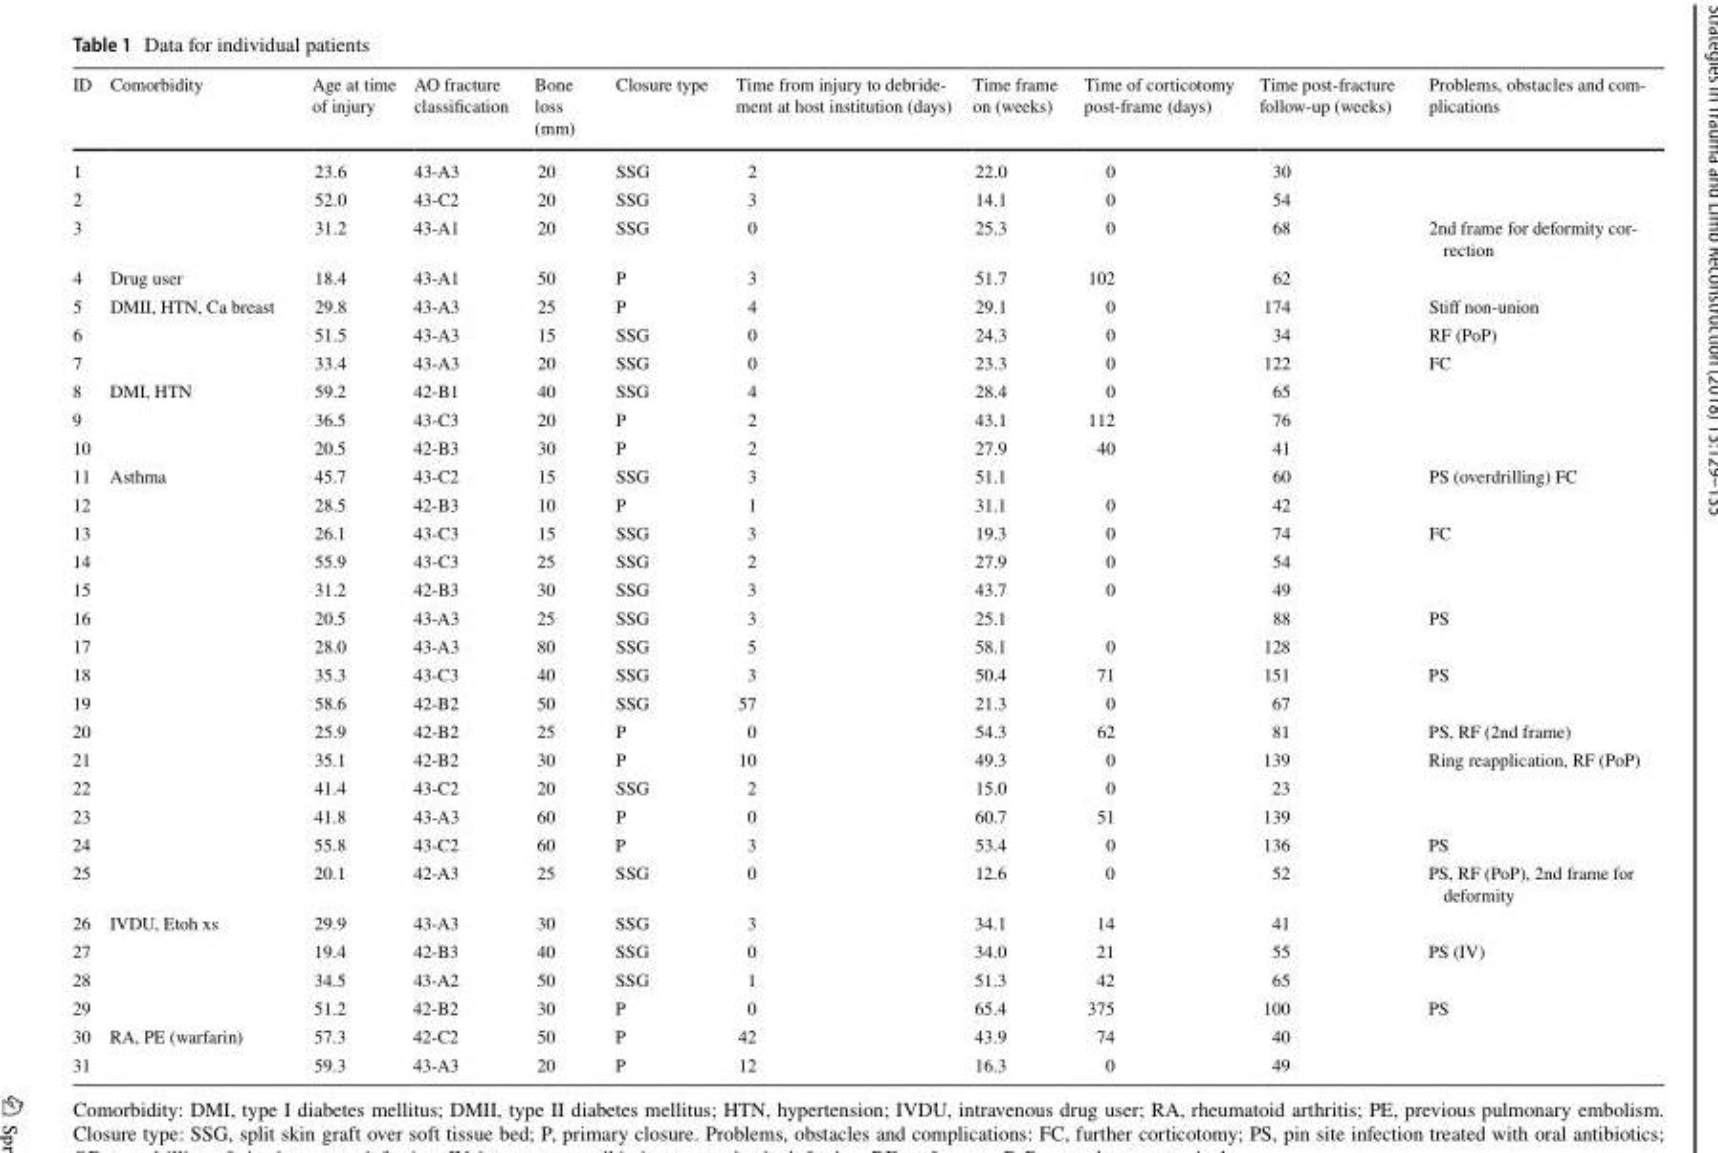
<table><thead><tr><td>ID</td><td>Comorbidity</td><td>Age at time of injury</td><td>AO fracture classification</td><td>Bone loss (mm)</td><td>Closure type</td><td>Time from injury to debride- ment at host institution (days)</td><td>Time frame on (weeks)</td><td>Time of corticotomy post-frame (days)</td><td>Time post-fracture follow-up (weeks)</td><td>Problems, obstacles and com- plications</td></tr></thead><tbody><tr><td>1</td><td></td><td>23.6</td><td>43-A3</td><td>20</td><td>SSG</td><td>2</td><td>22.0</td><td>0</td><td>30</td><td></td></tr><tr><td>2</td><td></td><td>52.0</td><td>43-C2</td><td>20</td><td>SSG</td><td>3</td><td>14.1</td><td>0</td><td>54</td><td></td></tr><tr><td>3</td><td></td><td>31.2</td><td>43-A1</td><td>20</td><td>SSG</td><td>0</td><td>25.3</td><td>0</td><td>68</td><td>2nd frame for deformity cor- rection</td></tr><tr><td>4</td><td>Drug user</td><td>18.4</td><td>43-A1</td><td>50</td><td>P</td><td>3</td><td>51.7</td><td>102</td><td>62</td><td></td></tr><tr><td>5</td><td>DMII, HTN, Ca breast</td><td>29.8</td><td>43-A3</td><td>25</td><td>P</td><td>4</td><td>29.1</td><td>0</td><td>174</td><td>Stiff non-union</td></tr><tr><td>6</td><td></td><td>51.5</td><td>43-A3</td><td>15</td><td>SSG</td><td>0</td><td>24.3</td><td>0</td><td>34</td><td>RF (PoP)</td></tr><tr><td>7</td><td></td><td>33.4</td><td>43-A3</td><td>20</td><td>SSG</td><td>0</td><td>23.3</td><td>0</td><td>122</td><td>FC</td></tr><tr><td>8</td><td>DMI, HTN</td><td>59.2</td><td>42-B1</td><td>40</td><td>SSG</td><td>4</td><td>28.4</td><td>0</td><td>65</td><td></td></tr><tr><td>9</td><td></td><td>36.5</td><td>43-C3</td><td>20</td><td>P</td><td>2</td><td>43.1</td><td>112</td><td>76</td><td></td></tr><tr><td>10</td><td></td><td>20.5</td><td>42-B3</td><td>30</td><td>P</td><td>2</td><td>27.9</td><td>40</td><td>41</td><td></td></tr><tr><td>11</td><td>Asthma</td><td>45.7</td><td>43-C2</td><td>15</td><td>SSG</td><td>3</td><td>51.1</td><td></td><td>60</td><td>PS (overdrilling) FC</td></tr><tr><td>12</td><td></td><td>28.5</td><td>42-B3</td><td>10</td><td>P</td><td>1</td><td>31.1</td><td>0</td><td>42</td><td></td></tr><tr><td>13</td><td></td><td>26.1</td><td>43-C3</td><td>15</td><td>SSG</td><td>3</td><td>19.3</td><td>0</td><td>74</td><td>FC</td></tr><tr><td>14</td><td></td><td>55.9</td><td>43-C3</td><td>25</td><td>SSG</td><td>2</td><td>27.9</td><td>0</td><td>54</td><td></td></tr><tr><td>15</td><td></td><td>31.2</td><td>42-B3</td><td>30</td><td>SSG</td><td>3</td><td>43.7</td><td>0</td><td>49</td><td></td></tr><tr><td>16</td><td></td><td>20.5</td><td>43-A3</td><td>25</td><td>SSG</td><td>3</td><td>25.1</td><td></td><td>88</td><td>PS</td></tr><tr><td>17</td><td></td><td>28.0</td><td>43-A3</td><td>80</td><td>SSG</td><td>5</td><td>58.1</td><td>0</td><td>128</td><td></td></tr><tr><td>18</td><td></td><td>35.3</td><td>43-C3</td><td>40</td><td>SSG</td><td>3</td><td>50.4</td><td>71</td><td>151</td><td>PS</td></tr><tr><td>19</td><td></td><td>58.6</td><td>42-B2</td><td>50</td><td>SSG</td><td>57</td><td>21.3</td><td>0</td><td>67</td><td></td></tr><tr><td>20</td><td></td><td>25.9</td><td>42-B2</td><td>25</td><td>P</td><td>0</td><td>54.3</td><td>62</td><td>81</td><td>PS, RF (2nd frame)</td></tr><tr><td>21</td><td></td><td>35.1</td><td>42-B2</td><td>30</td><td>P</td><td>10</td><td>49.3</td><td>0</td><td>139</td><td>Ring reapplication, RF (PoP)</td></tr><tr><td>22</td><td></td><td>41.4</td><td>43-C2</td><td>20</td><td>SSG</td><td>2</td><td>15.0</td><td>0</td><td>23</td><td></td></tr><tr><td>23</td><td></td><td>41.8</td><td>43-A3</td><td>60</td><td>P</td><td>0</td><td>60.7</td><td>51</td><td>139</td><td></td></tr><tr><td>24</td><td></td><td>55.8</td><td>43-C2</td><td>60</td><td>P</td><td>3</td><td>53.4</td><td>0</td><td>136</td><td>PS</td></tr><tr><td>25</td><td></td><td>20.1</td><td>42-A3</td><td>25</td><td>SSG</td><td>0</td><td>12.6</td><td>0</td><td>52</td><td>PS, RF (PoP), 2nd frame for deformity</td></tr><tr><td>26</td><td>IVDU, Etoh xs</td><td>29.9</td><td>43-A3</td><td>30</td><td>SSG</td><td>3</td><td>34.1</td><td>14</td><td>41</td><td></td></tr><tr><td>27</td><td></td><td>19.4</td><td>42-B3</td><td>40</td><td>SSG</td><td>0</td><td>34.0</td><td>21</td><td>55</td><td>PS (IV)</td></tr><tr><td>28</td><td></td><td>34.5</td><td>43-A2</td><td>50</td><td>SSG</td><td>1</td><td>51.3</td><td>42</td><td>65</td><td></td></tr><tr><td>29</td><td></td><td>51.2</td><td>42-B2</td><td>30</td><td>P</td><td>0</td><td>65.4</td><td>375</td><td>100</td><td>PS</td></tr><tr><td>30</td><td>RA, PE (warfarin)</td><td>57.3</td><td>42-C2</td><td>50</td><td>P</td><td>42</td><td>43.9</td><td>74</td><td>40</td><td></td></tr><tr><td>31</td><td></td><td>59.3</td><td>43-A3</td><td>20</td><td>P</td><td>12</td><td>16.3</td><td>0</td><td>49</td><td></td></tr></tbody></table>